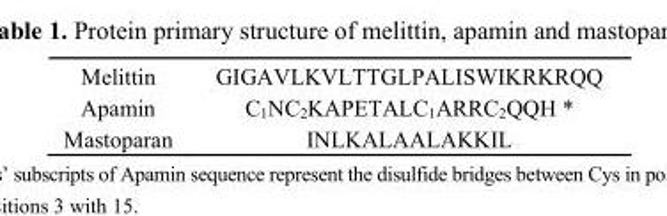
<table><tbody><tr><td>Melittin</td><td>GIGAVLKVLTTGLPALISWIKRKRQQ</td></tr><tr><td>Apamin</td><td>C<sub>1</sub>NC<sub>2</sub>KAPETALC<sub>1</sub>ARRC<sub>2</sub>QQH *</td></tr><tr><td>Mastoparan</td><td>INLKALAALAKKIL</td></tr></tbody></table>